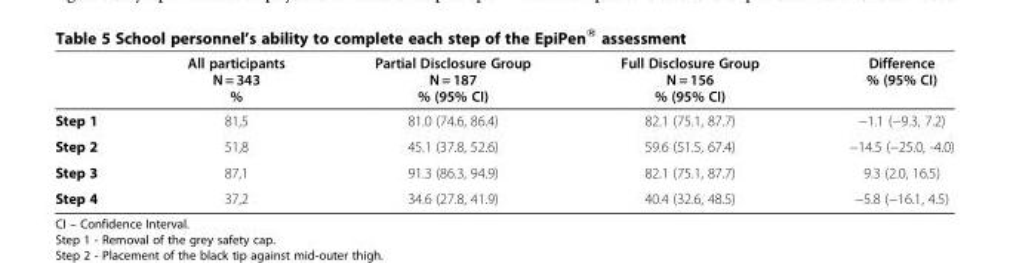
<table><thead><tr><td></td><td>All participants N = 343 %</td><td>Partial Disclosure Group N = 187 % (95% CI)</td><td>Full Disclosure Group N = 156 % (95% CI)</td><td>Difference % (95% CI)</td></tr></thead><tbody><tr><td>Step 1</td><td>81,5</td><td>81.0 (74.6, 86.4)</td><td>82.1 (75.1, 87.7)</td><td>−1.1 (−9.3, 7.2)</td></tr><tr><td>Step 2</td><td>51,8</td><td>45.1 (37.8, 52.6)</td><td>59.6 (51.5, 67.4)</td><td>−14.5 (−25.0, -4.0)</td></tr><tr><td>Step 3</td><td>87,1</td><td>91.3 (86.3, 94.9)</td><td>82.1 (75.1, 87.7)</td><td>9.3 (2.0, 16.5)</td></tr><tr><td>Step 4</td><td>37,2</td><td>34.6 (27.8, 41.9)</td><td>40.4 (32.6, 48.5)</td><td>−5.8 (−16.1, 4.5)</td></tr></tbody></table>